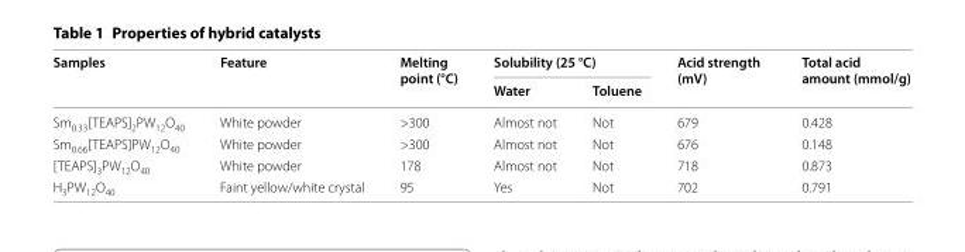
<table><thead><tr><td rowspan="2">Samples</td><td rowspan="2">Feature</td><td rowspan="2">Melting point (°C)</td><td colspan="2">Solubility (25 °C)</td><td rowspan="2">Acid strength (mV)</td><td rowspan="2">Total acid amount (mmol/g)</td></tr><tr><td>Water</td><td>Toluene</td></tr></thead><tbody><tr><td>Sm<sub>0.33</sub>[TEAPS]<sub>2</sub>PW<sub>12</sub>O<sub>40</sub></td><td>White powder</td><td>&gt;300</td><td>Almost not</td><td>Not</td><td>679</td><td>0.428</td></tr><tr><td>Sm<sub>0.66</sub>[TEAPS]PW<sub>12</sub>O<sub>40</sub></td><td>White powder</td><td>&gt;300</td><td>Almost not</td><td>Not</td><td>676</td><td>0.148</td></tr><tr><td>[TEAPS]<sub>3</sub>PW<sub>12</sub>O<sub>40</sub></td><td>White powder</td><td>178</td><td>Almost not</td><td>Not</td><td>718</td><td>0.873</td></tr><tr><td>H<sub>3</sub>PW<sub>12</sub>O<sub>40</sub></td><td>Faint yellow/white crystal</td><td>95</td><td>Yes</td><td>Not</td><td>702</td><td>0.791</td></tr></tbody></table>